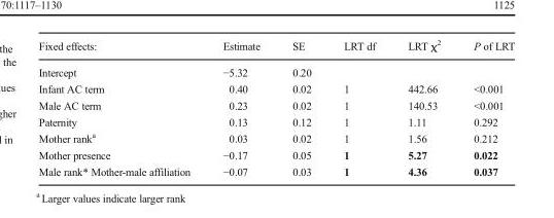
<table><thead><tr><td>Fixed effects:</td><td>Estimate</td><td>SE</td><td>LRT df</td><td>LRT χ<sup>2</sup></td><td>P of LRT</td></tr></thead><tbody><tr><td>Intercept</td><td>−5.32</td><td>0.20</td><td></td><td></td><td></td></tr><tr><td>Infant AC term</td><td>0.40</td><td>0.02</td><td>1</td><td>442.66</td><td>&lt;0.001</td></tr><tr><td>Male AC term</td><td>0.23</td><td>0.02</td><td>1</td><td>140.53</td><td>&lt;0.001</td></tr><tr><td>Paternity</td><td>0.13</td><td>0.12</td><td>1</td><td>1.11</td><td>0.292</td></tr><tr><td>Mother rank<sup>a</sup></td><td>0.03</td><td>0.02</td><td>1</td><td>1.56</td><td>0.212</td></tr><tr><td>Mother presence</td><td>−0.17</td><td>0.05</td><td>1</td><td>5.27</td><td>0.022</td></tr><tr><td>Male rank* Mother-male affiliation</td><td>−0.07</td><td>0.03</td><td>1</td><td>4.36</td><td>0.037</td></tr></tbody></table>